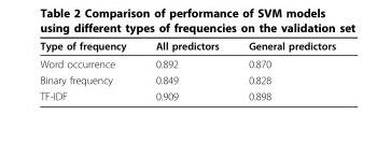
<table><thead><tr><td>Type of frequency</td><td>All predictors</td><td>General predictors</td></tr></thead><tbody><tr><td>Word occurrence</td><td>0.892</td><td>0.870</td></tr><tr><td>Binary frequency</td><td>0.849</td><td>0.828</td></tr><tr><td>TF-IDF</td><td>0.909</td><td>0.898</td></tr></tbody></table>